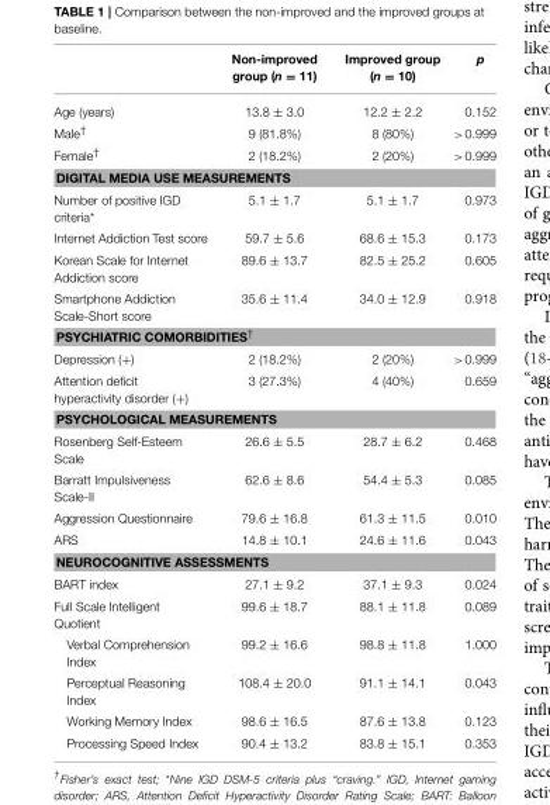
<table><thead><tr><td></td><td>Non-improved group (n = 11)</td><td>Improved group (n = 10)</td><td>p</td></tr></thead><tbody><tr><td>Age (years)</td><td>13.8 ± 3.0</td><td>12.2 ± 2.2</td><td>0.152</td></tr><tr><td>Male<sup>†</sup></td><td>9 (81.8%)</td><td>8 (80%)</td><td>&gt;0.999</td></tr><tr><td>Female<sup>†</sup></td><td>2 (18.2%)</td><td>2 (20%)</td><td>&gt;0.999</td></tr><tr><td colspan="4">DIGITAL MEDIA USE MEASUREMENTS</td></tr><tr><td>Number of positive IGD criteria*</td><td>5.1 ± 1.7</td><td>5.1 ± 1.7</td><td>0.973</td></tr><tr><td>Internet Addiction Test score</td><td>59.7 ± 5.6</td><td>68.6 ± 15.3</td><td>0.173</td></tr><tr><td>Korean Scale for Internet Addiction score</td><td>89.6 ± 13.7</td><td>82.5 ± 25.2</td><td>0.605</td></tr><tr><td>Smartphone Addiction Scale-Short score</td><td>35.6 ± 11.4</td><td>34.0 ± 12.9</td><td>0.918</td></tr><tr><td colspan="4">PSYCHIATRIC COMORBIDITIES<sup>†</sup></td></tr><tr><td>Depression (+)</td><td>2 (18.2%)</td><td>2 (20%)</td><td>&gt;0.999</td></tr><tr><td>Attention deficit hyperactivity disorder (+)</td><td>3 (27.3%)</td><td>4 (40%)</td><td>0.659</td></tr><tr><td colspan="4">PSYCHOLOGICAL MEASUREMENTS</td></tr><tr><td>Rosenberg Self-Esteem Scale</td><td>26.6 ± 5.5</td><td>28.7 ± 6.2</td><td>0.468</td></tr><tr><td>Barratt Impulsiveness Scale-II</td><td>62.6 ± 8.6</td><td>54.4 ± 5.3</td><td>0.085</td></tr><tr><td>Aggression Questionnaire</td><td>79.6 ± 16.8</td><td>61.3 ± 11.5</td><td>0.010</td></tr><tr><td>ARS</td><td>14.8 ± 10.1</td><td>24.6 ± 11.6</td><td>0.043</td></tr><tr><td colspan="4">NEUROCOGNITIVE ASSESSMENTS</td></tr><tr><td>BART index</td><td>27.1 ± 9.2</td><td>37.1 ± 9.3</td><td>0.024</td></tr><tr><td>Full Scale Intelligent Quotient</td><td>99.6 ± 18.7</td><td>88.1 ± 11.8</td><td>0.089</td></tr><tr><td>Verbal Comprehension Index</td><td>99.2 ± 16.6</td><td>98.8 ± 11.8</td><td>1.000</td></tr><tr><td>Perceptual Reasoning Index</td><td>108.4 ± 20.0</td><td>91.1 ± 14.1</td><td>0.043</td></tr><tr><td>Working Memory Index</td><td>98.6 ± 16.5</td><td>87.6 ± 13.8</td><td>0.123</td></tr><tr><td>Processing Speed Index</td><td>90.4 ± 13.2</td><td>83.8 ± 15.1</td><td>0.353</td></tr></tbody></table>